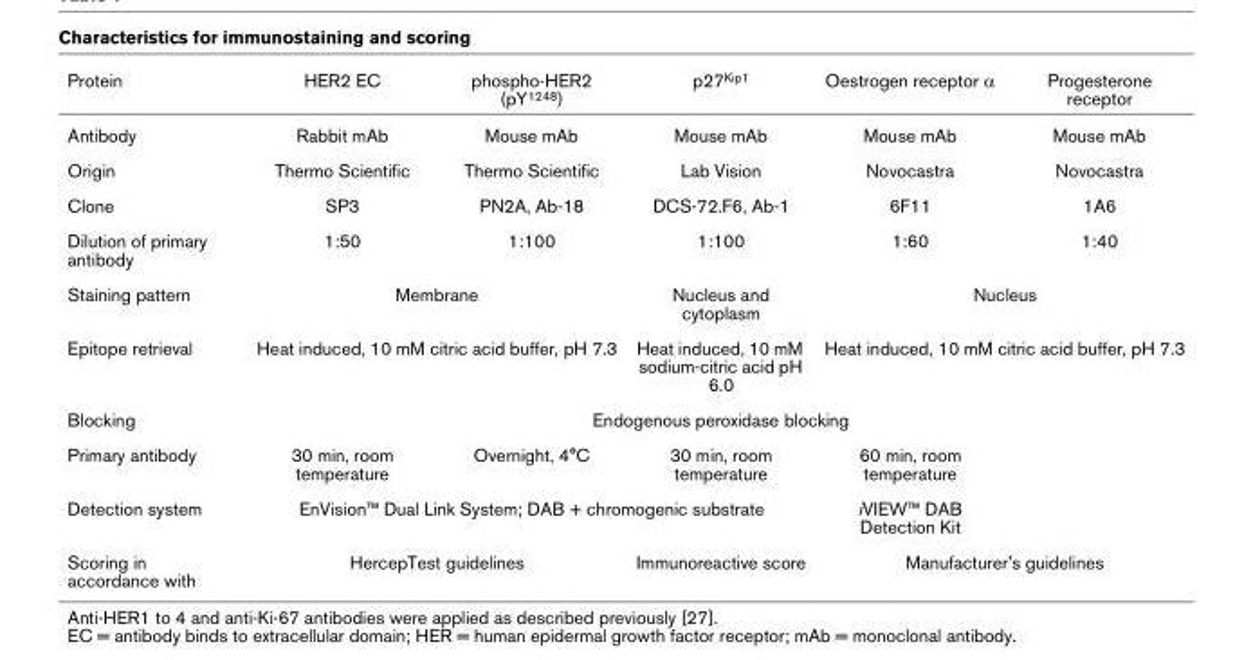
<table><thead><tr><td>Protein</td><td>HER2 EC</td><td>phospho-HER2 (pY<sup>1248</sup>)</td><td>p27<sup>Kip1</sup></td><td>Oestrogen receptor α</td><td>Progesterone receptor</td></tr></thead><tbody><tr><td>Antibody</td><td>Rabbit mAb</td><td>Mouse mAb</td><td>Mouse mAb</td><td>Mouse mAb</td><td>Mouse mAb</td></tr><tr><td>Origin</td><td>Thermo Scientific</td><td>Thermo Scientific</td><td>Lab Vision</td><td>Novocastra</td><td>Novocastra</td></tr><tr><td>Clone</td><td>SP3</td><td>PN2A, Ab-18</td><td>DCS-72.F6, Ab-1</td><td>6F11</td><td>1A6</td></tr><tr><td>Dilution of primary antibody</td><td>1:50</td><td>1:100</td><td>1:100</td><td>1:60</td><td>1:40</td></tr><tr><td>Staining pattern</td><td colspan="2">Membrane</td><td>Nucleus and cytoplasm</td><td colspan="2">Nucleus</td></tr><tr><td>Epitope retrieval</td><td colspan="2">Heat induced, 10 mM citric acid buffer, pH 7.3</td><td>Heat induced, 10 mM sodium-citric acid pH 6.0</td><td colspan="2">Heat induced, 10 mM citric acid buffer, pH 7.3</td></tr><tr><td>Blocking</td><td colspan="5">Endogenous peroxidase blocking</td></tr><tr><td>Primary antibody</td><td>30 min, room temperature</td><td>Overnight, 4°C</td><td>30 min, room temperature</td><td>60 min, room temperature</td><td></td></tr><tr><td>Detection system</td><td colspan="3">EnVision™ Dual Link System; DAB + chromogenic substrate</td><td>iVIEW™ DAB Detection Kit</td><td></td></tr><tr><td>Scoring in accordance with</td><td colspan="2">HercepTest guidelines</td><td>Immunoreactive score</td><td colspan="2">Manufacturer&#x27;s guidelines</td></tr></tbody></table>